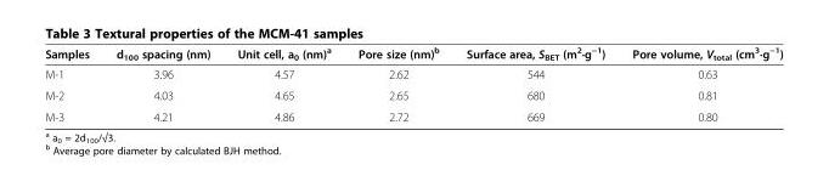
<table><thead><tr><td>Samples</td><td>d<sub>100</sub> spacing (nm)</td><td>Unit cell, a<sub>0</sub> (nm)<sup>a</sup></td><td>Pore size (nm)<sup>b</sup></td><td>Surface area, S<sub>BET</sub> (m<sup>2</sup>·g<sup>−1</sup>)</td><td>Pore volume, V<sub>total</sub> (cm<sup>3</sup>·g<sup>−1</sup>)</td></tr></thead><tbody><tr><td>M-1</td><td>3.96</td><td>4.57</td><td>2.62</td><td>544</td><td>0.63</td></tr><tr><td>M-2</td><td>4.03</td><td>4.65</td><td>2.65</td><td>680</td><td>0.81</td></tr><tr><td>M-3</td><td>4.21</td><td>4.86</td><td>2.72</td><td>669</td><td>0.80</td></tr></tbody></table>